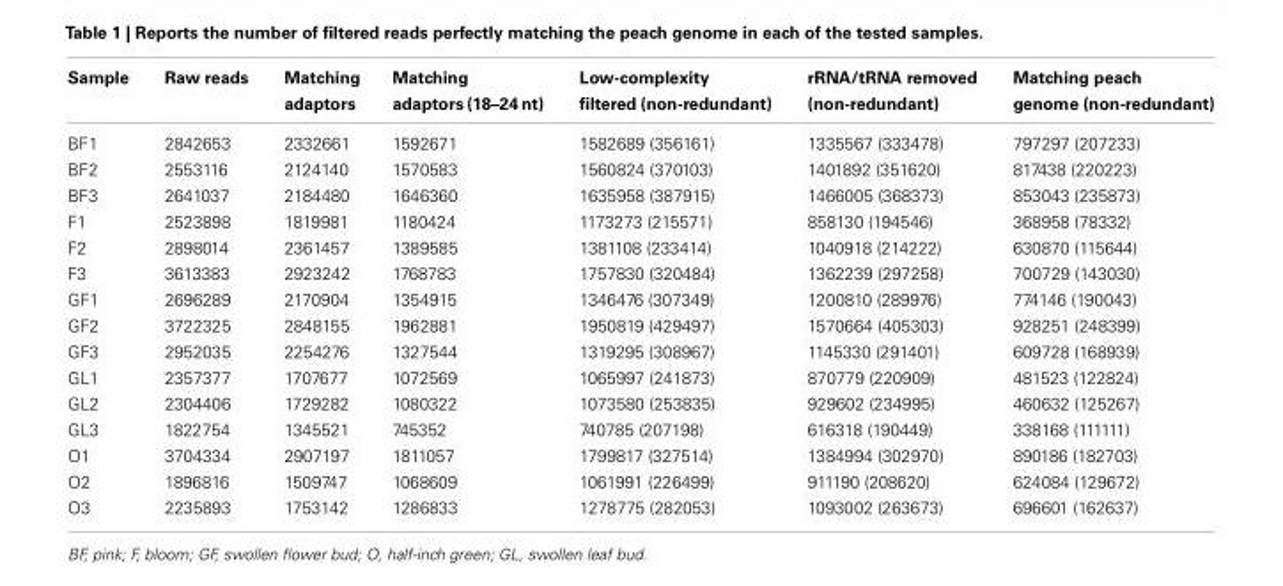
<table><thead><tr><td>Sample</td><td>Raw reads</td><td>Matching adaptors</td><td>Matching adaptors (18–24 nt)</td><td>Low-complexity filtered (non-redundant)</td><td>rRNA/tRNA removed (non-redundant)</td><td>Matching peach genome (non-redundant)</td></tr></thead><tbody><tr><td>BF1</td><td>2842653</td><td>2332661</td><td>1592671</td><td>1582689 (356161)</td><td>1335567 (333478)</td><td>797297 (207233)</td></tr><tr><td>BF2</td><td>2553116</td><td>2124140</td><td>1570583</td><td>1560824 (370103)</td><td>1401892 (351620)</td><td>817438 (220223)</td></tr><tr><td>BF3</td><td>2641037</td><td>2184480</td><td>1646360</td><td>1635958 (387915)</td><td>1466005 (368373)</td><td>853043 (235873)</td></tr><tr><td>F1</td><td>2523898</td><td>1819981</td><td>1180424</td><td>1173273 (215571)</td><td>858130 (194546)</td><td>368958 (78332)</td></tr><tr><td>F2</td><td>2898014</td><td>2361457</td><td>1389585</td><td>1381108 (233414)</td><td>1040918 (214222)</td><td>630870 (115644)</td></tr><tr><td>F3</td><td>3613383</td><td>2923242</td><td>1768783</td><td>1757830 (320484)</td><td>1362239 (297258)</td><td>700729 (143030)</td></tr><tr><td>GF1</td><td>2696289</td><td>2170904</td><td>1354915</td><td>1346476 (307349)</td><td>1200810 (289976)</td><td>774146 (190043)</td></tr><tr><td>GF2</td><td>3722325</td><td>2848155</td><td>1962881</td><td>1950819 (429497)</td><td>1570664 (405303)</td><td>928251 (248399)</td></tr><tr><td>GF3</td><td>2952035</td><td>2254276</td><td>1327544</td><td>1319295 (308967)</td><td>1145330 (291401)</td><td>609728 (168939)</td></tr><tr><td>GL1</td><td>2357377</td><td>1707677</td><td>1072569</td><td>1065997 (241873)</td><td>870779 (220909)</td><td>481523 (122824)</td></tr><tr><td>GL2</td><td>2304406</td><td>1729282</td><td>1080322</td><td>1073580 (253835)</td><td>929602 (234995)</td><td>460632 (125267)</td></tr><tr><td>GL3</td><td>1822754</td><td>1345521</td><td>745352</td><td>740785 (207198)</td><td>616318 (190449)</td><td>338168 (111111)</td></tr><tr><td>O1</td><td>3704334</td><td>2907197</td><td>1811057</td><td>1799817 (327514)</td><td>1384994 (302970)</td><td>890186 (182703)</td></tr><tr><td>O2</td><td>1896816</td><td>1509747</td><td>1068609</td><td>1061991 (226499)</td><td>911190 (208620)</td><td>624084 (129672)</td></tr><tr><td>O3</td><td>2235893</td><td>1753142</td><td>1286833</td><td>1278775 (282053)</td><td>1093002 (263673)</td><td>696601 (162637)</td></tr></tbody></table>